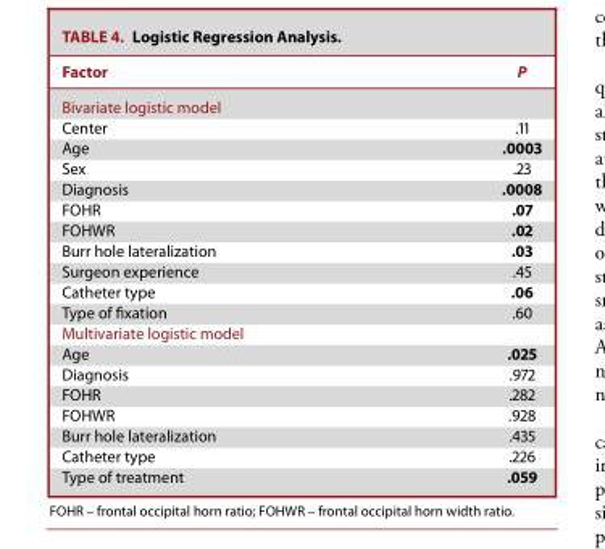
<table><thead><tr><td>Factor</td><td>P</td></tr></thead><tbody><tr><td colspan="2">Bivariate logistic model</td></tr><tr><td>Center</td><td>.11</td></tr><tr><td>Age</td><td>.0003</td></tr><tr><td>Sex</td><td>.23</td></tr><tr><td>Diagnosis</td><td>.0008</td></tr><tr><td>FOHR</td><td>.07</td></tr><tr><td>FOHWR</td><td>.02</td></tr><tr><td>Burr hole lateralization</td><td>.03</td></tr><tr><td>Surgeon experience</td><td>.45</td></tr><tr><td>Catheter type</td><td>.06</td></tr><tr><td>Type of fixation</td><td>.60</td></tr><tr><td colspan="2">Multivariate logistic model</td></tr><tr><td>Age</td><td>.025</td></tr><tr><td>Diagnosis</td><td>.972</td></tr><tr><td>FOHR</td><td>.282</td></tr><tr><td>FOHWR</td><td>.928</td></tr><tr><td>Burr hole lateralization</td><td>.435</td></tr><tr><td>Catheter type</td><td>.226</td></tr><tr><td>Type of treatment</td><td>.059</td></tr></tbody></table>